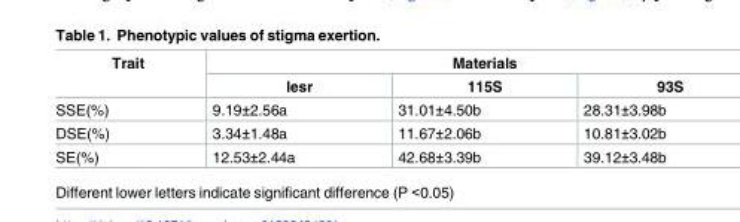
<table><thead><tr><td rowspan="2">Trait</td><td colspan="3">Materials</td></tr><tr><td>lesr</td><td>115S</td><td>93S</td></tr></thead><tbody><tr><td>SSE(%)</td><td>9.19±2.56a</td><td>31.01±4.50b</td><td>28.31±3.98b</td></tr><tr><td>DSE(%)</td><td>3.34±1.48a</td><td>11.67±2.06b</td><td>10.81±3.02b</td></tr><tr><td>SE(%)</td><td>12.53±2.44a</td><td>42.68±3.39b</td><td>39.12±3.48b</td></tr></tbody></table>